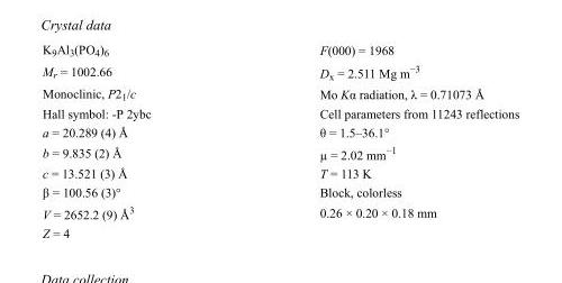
<table><tbody><tr><td>K<sub>9</sub>Al<sub>3</sub>(PO<sub>4</sub>)<sub>6</sub></td><td>F(000) = 1968</td></tr><tr><td>M<sub>r</sub> = 1002.66</td><td>D<sub>x</sub> = 2.511 Mg m<sup>−3</sup></td></tr><tr><td>Monoclinic, P2<sub>1</sub>/c</td><td>Mo Kα radiation, λ = 0.71073 Å</td></tr><tr><td>Hall symbol: -P 2ybc</td><td>Cell parameters from 11243 reflections</td></tr><tr><td>a = 20.289 (4) Å</td><td>θ = 1.5–36.1°</td></tr><tr><td>b = 9.835 (2) Å</td><td>µ = 2.02 mm<sup>−1</sup></td></tr><tr><td>c = 13.521 (3) Å</td><td>T = 113 K</td></tr><tr><td>β = 100.56 (3)°</td><td>Block, colorless</td></tr><tr><td>V = 2652.2 (9) Å<sup>3</sup></td><td>0.26 × 0.20 × 0.18 mm</td></tr><tr><td>Z = 4</td><td></td></tr></tbody></table>